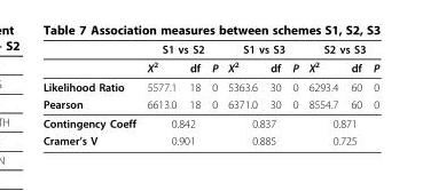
<table><thead><tr><td rowspan="2"></td><td colspan="3">S1 vs S2</td><td colspan="3">S1 vs S3</td><td colspan="3">S2 vs S3</td></tr><tr><td>X<sup>2</sup></td><td>df</td><td>P</td><td>X<sup>2</sup></td><td>df</td><td>P</td><td>X<sup>2</sup></td><td>df</td><td>P</td></tr></thead><tbody><tr><td>Likelihood Ratio</td><td>5577.1</td><td>18</td><td>0</td><td>5363.6</td><td>30</td><td>0</td><td>6293.4</td><td>60</td><td>0</td></tr><tr><td>Pearson</td><td>6613.0</td><td>18</td><td>0</td><td>6371.0</td><td>30</td><td>0</td><td>8554.7</td><td>60</td><td>0</td></tr><tr><td>Contingency Coeff</td><td colspan="3">0.842</td><td colspan="3">0.837</td><td colspan="3">0.871</td></tr><tr><td>Cramer’s V</td><td colspan="3">0.901</td><td colspan="3">0.885</td><td colspan="3">0.725</td></tr></tbody></table>